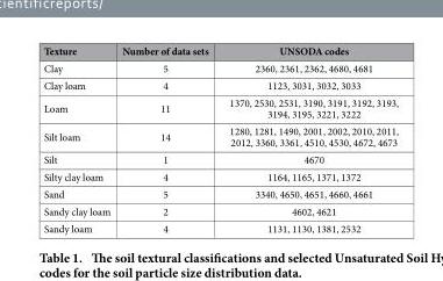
<table><thead><tr><td>Texture</td><td>Number of data sets</td><td>UNSODA codes</td></tr></thead><tbody><tr><td>Clay</td><td>5</td><td>2360, 2361, 2362, 4680, 4681</td></tr><tr><td>Clay loam</td><td>4</td><td>1123, 3031, 3032, 3033</td></tr><tr><td>Loam</td><td>11</td><td>1370, 2530, 2531, 3190, 3191, 3192, 3193, 3194, 3195, 3221, 3222</td></tr><tr><td>Silt loam</td><td>14</td><td>1280, 1281, 1490, 2001, 2002, 2010, 2011, 2012, 3360, 3361, 4510, 4530, 4672, 4673</td></tr><tr><td>Silt</td><td>1</td><td>4670</td></tr><tr><td>Silty clay loam</td><td>4</td><td>1164, 1165, 1371, 1372</td></tr><tr><td>Sand</td><td>5</td><td>3340, 4650, 4651, 4660, 4661</td></tr><tr><td>Sandy clay loam</td><td>2</td><td>4602, 4621</td></tr><tr><td>Sandy loam</td><td>4</td><td>1131, 1130, 1381, 2532</td></tr></tbody></table>